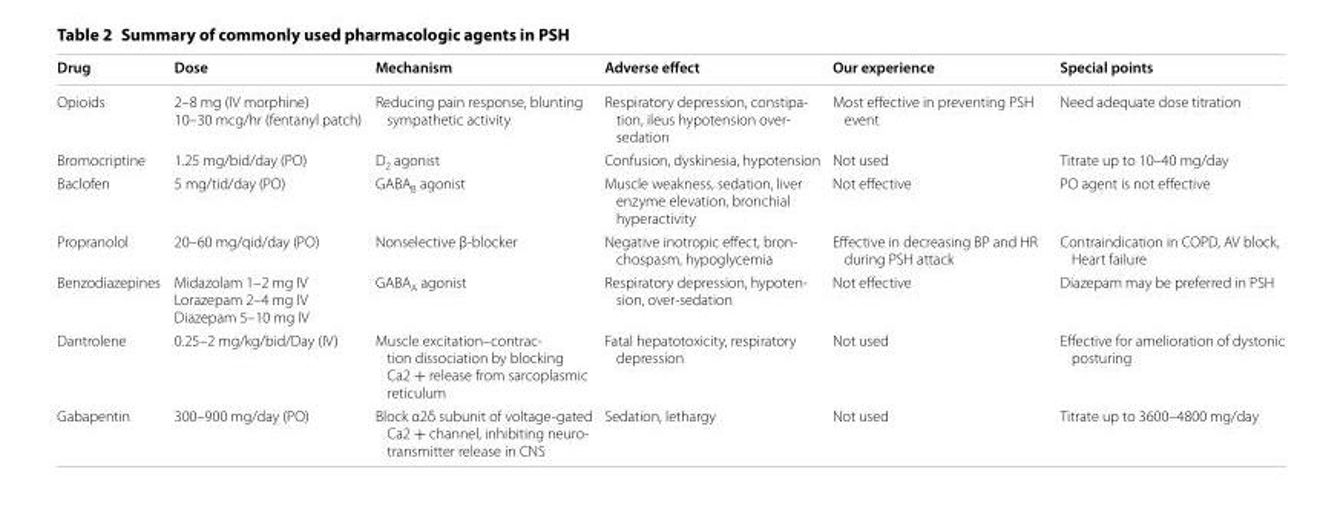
<table><thead><tr><td>Drug</td><td>Dose</td><td>Mechanism</td><td>Adverse effect</td><td>Our experience</td><td>Special points</td></tr></thead><tbody><tr><td>Opioids</td><td>2–8 mg (IV morphine) 10–30 mcg/hr (fentanyl patch)</td><td>Reducing pain response, blunting sympathetic activity</td><td>Respiratory depression, constipa- tion, ileus hypotension over- sedation</td><td>Most effective in preventing PSH event</td><td>Need adequate dose titration</td></tr><tr><td>Bromocriptine</td><td>1.25 mg/bid/day (PO)</td><td>D<sub>2</sub> agonist</td><td>Confusion, dyskinesia, hypotension</td><td>Not used</td><td>Titrate up to 10–40 mg/day</td></tr><tr><td>Baclofen</td><td>5 mg/tid/day (PO)</td><td>GABA<sub>B</sub> agonist</td><td>Muscle weakness, sedation, liver enzyme elevation, bronchial hyperactivity</td><td>Not effective</td><td>PO agent is not effective</td></tr><tr><td>Propranolol</td><td>20–60 mg/qid/day (PO)</td><td>Nonselective β-blocker</td><td>Negative inotropic effect, bron- chospasm, hypoglycemia</td><td>Effective in decreasing BP and HR during PSH attack</td><td>Contraindication in COPD, AV block, Heart failure</td></tr><tr><td>Benzodiazepines</td><td>Midazolam 1–2 mg IV Lorazepam 2–4 mg IV Diazepam 5–10 mg IV</td><td>GABA<sub>A</sub> agonist</td><td>Respiratory depression, hypoten- sion, over-sedation</td><td>Not effective</td><td>Diazepam may be preferred in PSH</td></tr><tr><td>Dantrolene</td><td>0.25–2 mg/kg/bid/Day (IV)</td><td>Muscle excitation–contrac- tion dissociation by blocking Ca2 + release from sarcoplasmic reticulum</td><td>Fatal hepatotoxicity, respiratory depression</td><td>Not used</td><td>Effective for amelioration of dystonic posturing</td></tr><tr><td>Gabapentin</td><td>300–900 mg/day (PO)</td><td>Block α2δ subunit of voltage-gated Ca2 + channel, inhibiting neuro- transmitter release in CNS</td><td>Sedation, lethargy</td><td>Not used</td><td>Titrate up to 3600–4800 mg/day</td></tr></tbody></table>